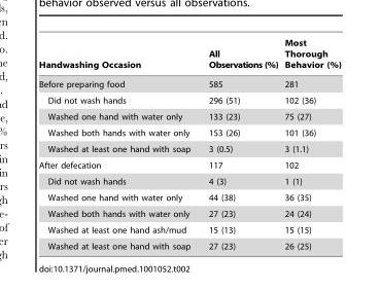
<table><thead><tr><td>Handwashing Occasion</td><td>All Observations (%)</td><td>Most Thorough Behavior (%)</td></tr></thead><tbody><tr><td>Before preparing food</td><td>585</td><td>281</td></tr><tr><td>Did not wash hands</td><td>296 (51)</td><td>102 (36)</td></tr><tr><td>Washed one hand with water only</td><td>133 (23)</td><td>75 (27)</td></tr><tr><td>Washed both hands with water only</td><td>153 (26)</td><td>101 (36)</td></tr><tr><td>Washed at least one hand with soap</td><td>3 (0.5)</td><td>3 (1.1)</td></tr><tr><td>After defecation</td><td>117</td><td>102</td></tr><tr><td>Did not wash hands</td><td>4 (3)</td><td>1 (1)</td></tr><tr><td>Washed one hand with water only</td><td>44 (38)</td><td>36 (35)</td></tr><tr><td>Washed both hands with water only</td><td>27 (23)</td><td>24 (24)</td></tr><tr><td>Washed at least one hand ash/mud</td><td>15 (13)</td><td>15 (15)</td></tr><tr><td>Washed at least one hand with soap</td><td>27 (23)</td><td>26 (25)</td></tr></tbody></table>